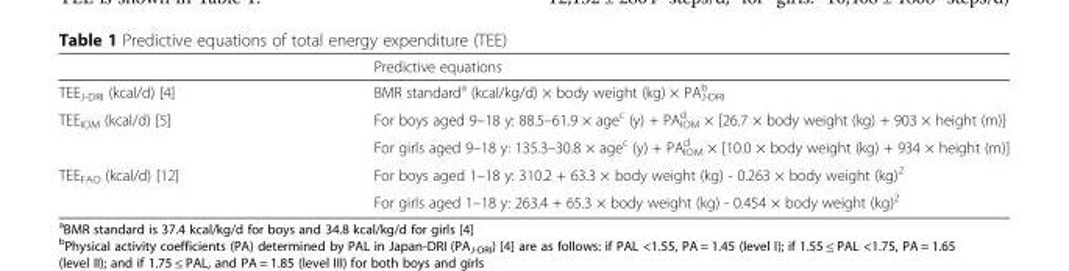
<table><thead><tr><td></td><td>Predictive equations</td></tr></thead><tbody><tr><td>TEE<sub>J-DRI</sub> (kcal/d) [4]</td><td>BMR standard<sup>a</sup> (kcal/kg/d) × body weight (kg) × PA<sub>J-DRI</sub> <sup>b</sup></td></tr><tr><td rowspan="2">TEE<sub>IOM</sub> (kcal/d) [5]</td><td>For boys aged 9–18 y: 88.5–61.9 × age<sup>c</sup> (y) + PA<sub>IOM</sub> <sup>d</sup> × [26.7 × body weight (kg) + 903 × height (m)]</td></tr><tr><td>For girls aged 9–18 y: 135.3–30.8 × age<sup>c</sup> (y) + PA<sub>IOM</sub> <sup>d</sup> × [10.0 × body weight (kg) + 934 × height (m)]</td></tr><tr><td rowspan="2">TEE<sub>FAO</sub> (kcal/d) [12]</td><td>For boys aged 1–18 y: 310.2 + 63.3 × body weight (kg) - 0.263 × body weight (kg)<sup>2</sup></td></tr><tr><td>For girls aged 1–18 y: 263.4 + 65.3 × body weight (kg) - 0.454 × body weight (kg)<sup>2</sup></td></tr></tbody></table>